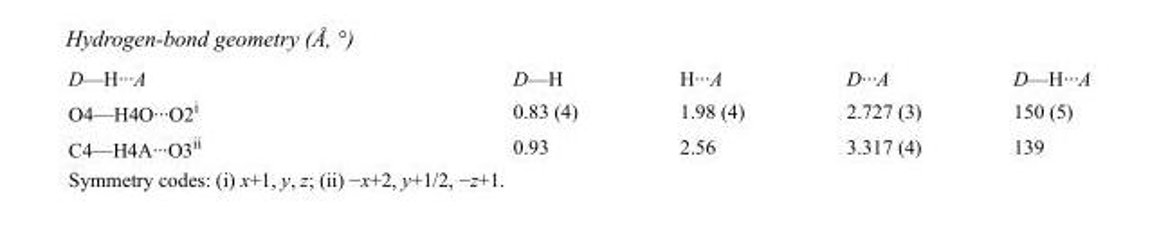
<table><tbody><tr><td>D—H···A</td><td>D—H</td><td>H···A</td><td>D···A</td><td>D—H···A</td></tr><tr><td>O4—H4O···O2<sup>i</sup></td><td>0.83 (4)</td><td>1.98 (4)</td><td>2.727 (3)</td><td>150 (5)</td></tr><tr><td>C4—H4A···O3<sup>ii</sup></td><td>0.93</td><td>2.56</td><td>3.317 (4)</td><td>139</td></tr></tbody></table>